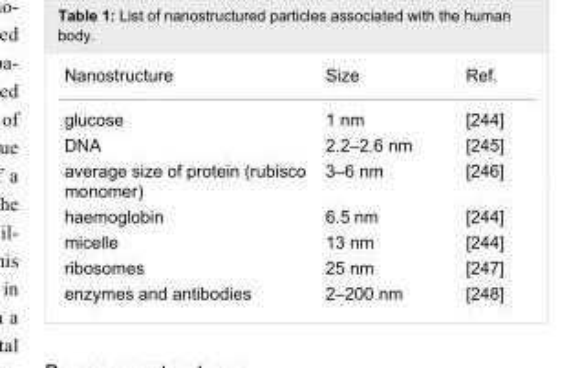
<table><tbody><tr><td>Nanostructure</td><td>Size</td><td>Ref.</td></tr><tr><td>glucose</td><td>1 nm</td><td>[244]</td></tr><tr><td>DNA</td><td>2.2–2.6 nm</td><td>[245]</td></tr><tr><td>average size of protein (rubisco monomer)</td><td>3–6 nm</td><td>[246]</td></tr><tr><td>haemoglobin</td><td>6.5 nm</td><td>[244]</td></tr><tr><td>micelle</td><td>13 nm</td><td>[244]</td></tr><tr><td>ribosomes</td><td>25 nm</td><td>[247]</td></tr><tr><td>enzymes and antibodies</td><td>2–200 nm</td><td>[248]</td></tr></tbody></table>